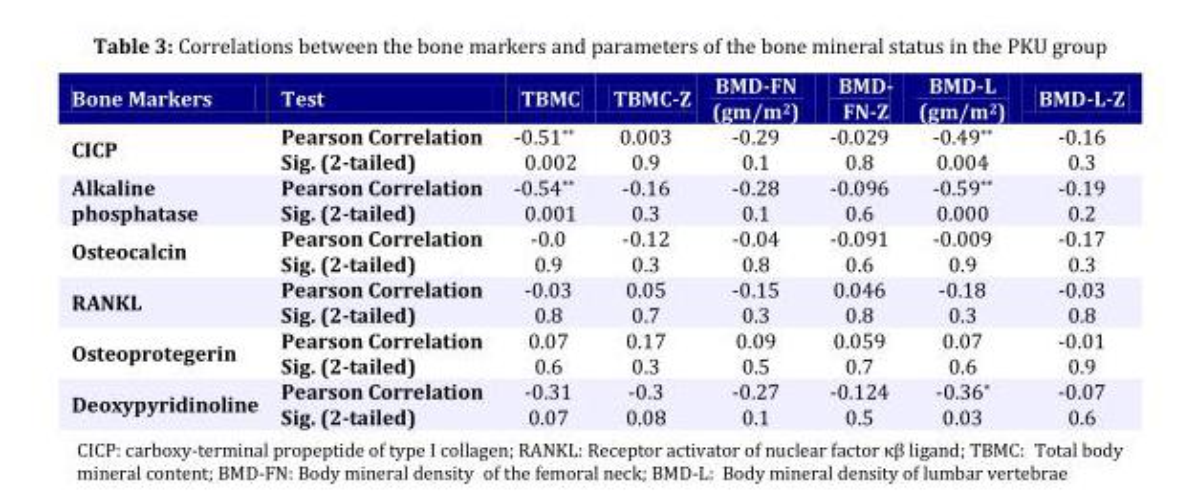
<table><thead><tr><td>Bone Markers</td><td>Test</td><td>TBMC</td><td>TBMC-Z</td><td>BMD-FN (gm/m<sup>2</sup>)</td><td>BMD- FN-Z</td><td>BMD-L (gm/m<sup>2</sup>)</td><td>BMD-L-Z</td></tr></thead><tbody><tr><td rowspan="2">CICP</td><td>Pearson Correlation</td><td>-0.51**</td><td>0.003</td><td>-0.29</td><td>-0.029</td><td>-0.49**</td><td>-0.16</td></tr><tr><td>Sig. (2-tailed)</td><td>0.002</td><td>0.9</td><td>0.1</td><td>0.8</td><td>0.004</td><td>0.3</td></tr><tr><td rowspan="2">Alkaline phosphatase</td><td>Pearson Correlation</td><td>-0.54**</td><td>-0.16</td><td>-0.28</td><td>-0.096</td><td>-0.59**</td><td>-0.19</td></tr><tr><td>Sig. (2-tailed)</td><td>0.001</td><td>0.3</td><td>0.1</td><td>0.6</td><td>0.000</td><td>0.2</td></tr><tr><td rowspan="2">Osteocalcin</td><td>Pearson Correlation</td><td>-0.0</td><td>-0.12</td><td>-0.04</td><td>-0.091</td><td>-0.009</td><td>-0.17</td></tr><tr><td>Sig. (2-tailed)</td><td>0.9</td><td>0.3</td><td>0.8</td><td>0.6</td><td>0.9</td><td>0.3</td></tr><tr><td rowspan="2">RANKL</td><td>Pearson Correlation</td><td>-0.03</td><td>0.05</td><td>-0.15</td><td>0.046</td><td>-0.18</td><td>-0.03</td></tr><tr><td>Sig. (2-tailed)</td><td>0.8</td><td>0.7</td><td>0.3</td><td>0.8</td><td>0.3</td><td>0.8</td></tr><tr><td rowspan="2">Osteoprotegerin</td><td>Pearson Correlation</td><td>0.07</td><td>0.17</td><td>0.09</td><td>0.059</td><td>0.07</td><td>-0.01</td></tr><tr><td>Sig. (2-tailed)</td><td>0.6</td><td>0.3</td><td>0.5</td><td>0.7</td><td>0.6</td><td>0.9</td></tr><tr><td rowspan="2">Deoxypyridinoline</td><td>Pearson Correlation</td><td>-0.31</td><td>-0.3</td><td>-0.27</td><td>-0.124</td><td>-0.36*</td><td>-0.07</td></tr><tr><td>Sig. (2-tailed)</td><td>0.07</td><td>0.08</td><td>0.1</td><td>0.5</td><td>0.03</td><td>0.6</td></tr></tbody></table>